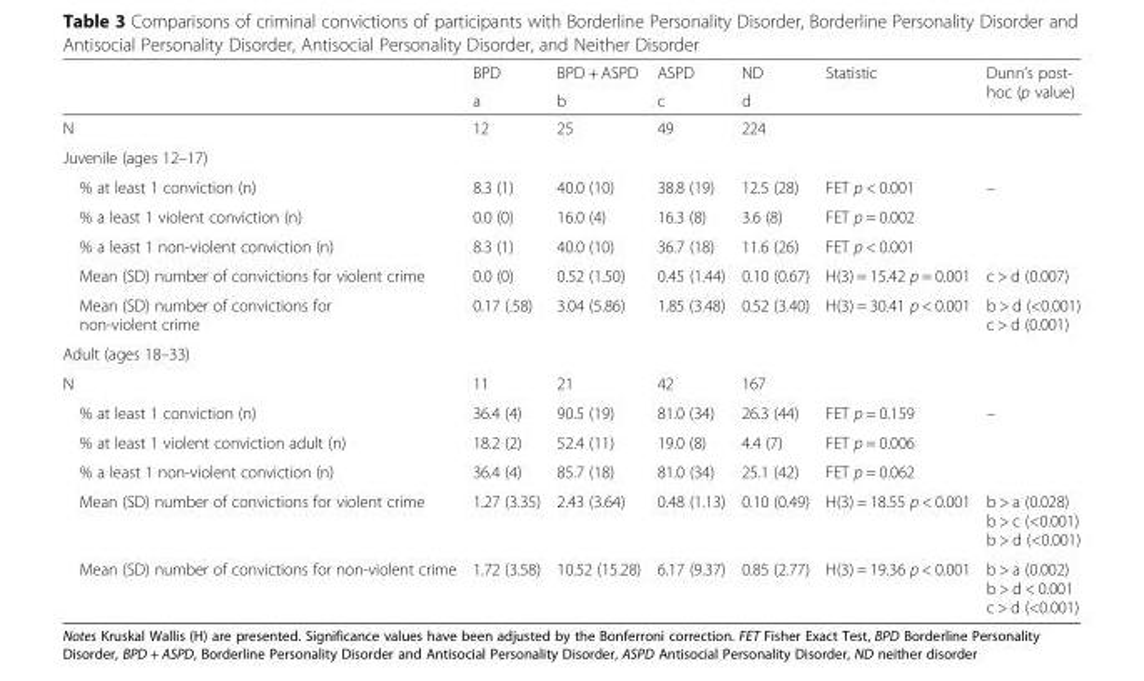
<table><thead><tr><td rowspan="2"></td><td rowspan="2">BPD a</td><td rowspan="2">BPD + ASPD b</td><td rowspan="2">ASPD c</td><td rowspan="2">ND d</td><td rowspan="2">Statistic</td><td rowspan="2">Dunn’s post- hoc (p value)</td></tr><tr></tr></thead><tbody><tr><td>N</td><td>12</td><td>25</td><td>49</td><td>224</td><td></td><td></td></tr><tr><td colspan="7">Juvenile (ages 12–17)</td></tr><tr><td>% at least 1 conviction (n)</td><td>8.3 (1)</td><td>40.0 (10)</td><td>38.8 (19)</td><td>12.5 (28)</td><td>FET p &lt; 0.001</td><td>–</td></tr><tr><td>% a least 1 violent conviction (n)</td><td>0.0 (0)</td><td>16.0 (4)</td><td>16.3 (8)</td><td>3.6 (8)</td><td>FET p = 0.002</td><td></td></tr><tr><td>% a least 1 non-violent conviction (n)</td><td>8.3 (1)</td><td>40.0 (10)</td><td>36.7 (18)</td><td>11.6 (26)</td><td>FET p &lt; 0.001</td><td></td></tr><tr><td>Mean (SD) number of convictions for violent crime</td><td>0.0 (0)</td><td>0.52 (1.50)</td><td>0.45 (1.44)</td><td>0.10 (0.67)</td><td>H(3) = 15.42 p = 0.001</td><td>c &gt; d (0.007)</td></tr><tr><td>Mean (SD) number of convictions for non-violent crime</td><td>0.17 (.58)</td><td>3.04 (5.86)</td><td>1.85 (3.48)</td><td>0.52 (3.40)</td><td>H(3) = 30.41 p &lt; 0.001</td><td>b &gt; d (&lt;0.001) c &gt; d (0.001)</td></tr><tr><td colspan="7">Adult (ages 18–33)</td></tr><tr><td>N</td><td>11</td><td>21</td><td>42</td><td>167</td><td></td><td></td></tr><tr><td>% at least 1 conviction (n)</td><td>36.4 (4)</td><td>90.5 (19)</td><td>81.0 (34)</td><td>26.3 (44)</td><td>FET p = 0.159</td><td>–</td></tr><tr><td>% at least 1 violent conviction adult (n)</td><td>18.2 (2)</td><td>52.4 (11)</td><td>19.0 (8)</td><td>4.4 (7)</td><td>FET p = 0.006</td><td></td></tr><tr><td>% a least 1 non-violent conviction (n)</td><td>36.4 (4)</td><td>85.7 (18)</td><td>81.0 (34)</td><td>25.1 (42)</td><td>FET p = 0.062</td><td></td></tr><tr><td>Mean (SD) number of convictions for violent crime</td><td>1.27 (3.35)</td><td>2.43 (3.64)</td><td>0.48 (1.13)</td><td>0.10 (0.49)</td><td>H(3) = 18.55 p &lt; 0.001</td><td>b &gt; a (0.028) b &gt; c (&lt;0.001) b &gt; d (&lt;0.001)</td></tr><tr><td>Mean (SD) number of convictions for non-violent crime</td><td>1.72 (3.58)</td><td>10.52 (15.28)</td><td>6.17 (9.37)</td><td>0.85 (2.77)</td><td>H(3) = 19.36 p &lt; 0.001</td><td>b &gt; a (0.002) b &gt; d &lt; 0.001 c &gt; d (&lt;0.001)</td></tr></tbody></table>